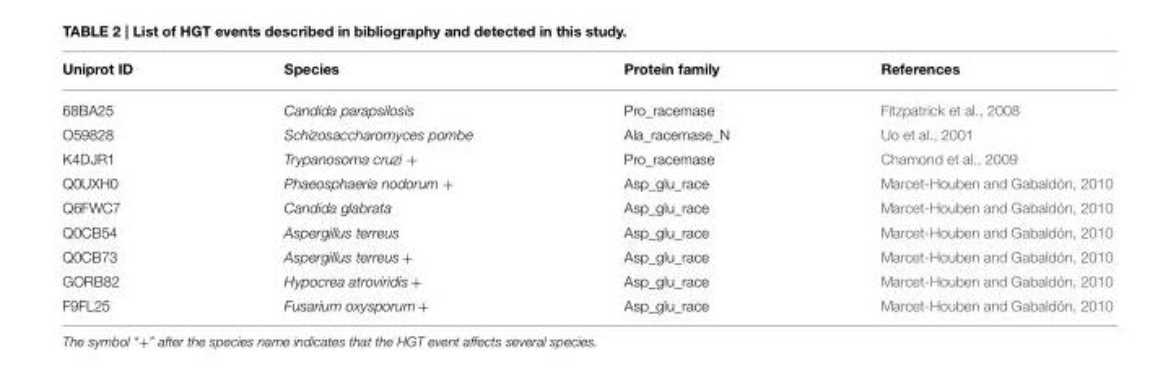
<table><thead><tr><td>Uniprot ID</td><td>Species</td><td>Protein family</td><td>References</td></tr></thead><tbody><tr><td>68BA25</td><td>Candida parapsilosis</td><td>Pro_racemase</td><td>Fitzpatrick et al., 2008</td></tr><tr><td>O59828</td><td>Schizosaccharomyces pombe</td><td>Ala_racemase_N</td><td>Uo et al., 2001</td></tr><tr><td>K4DJR1</td><td>Trypanosoma cruzi +</td><td>Pro_racemase</td><td>Chamond et al., 2009</td></tr><tr><td>Q0UXH0</td><td>Phaeosphaeria nodorum +</td><td>Asp_glu_race</td><td>Marcet-Houben and Gabaldón, 2010</td></tr><tr><td>Q6FWC7</td><td>Candida glabrata</td><td>Asp_glu_race</td><td>Marcet-Houben and Gabaldón, 2010</td></tr><tr><td>Q0CB54</td><td>Aspergillus terreus</td><td>Asp_glu_race</td><td>Marcet-Houben and Gabaldón, 2010</td></tr><tr><td>Q0CB73</td><td>Aspergillus terreus +</td><td>Asp_glu_race</td><td>Marcet-Houben and Gabaldón, 2010</td></tr><tr><td>GORB82</td><td>Hypocrea atroviridis +</td><td>Asp_glu_race</td><td>Marcet-Houben and Gabaldón, 2010</td></tr><tr><td>F9FL25</td><td>Fusarium oxysporum +</td><td>Asp_glu_race</td><td>Marcet-Houben and Gabaldón, 2010</td></tr></tbody></table>